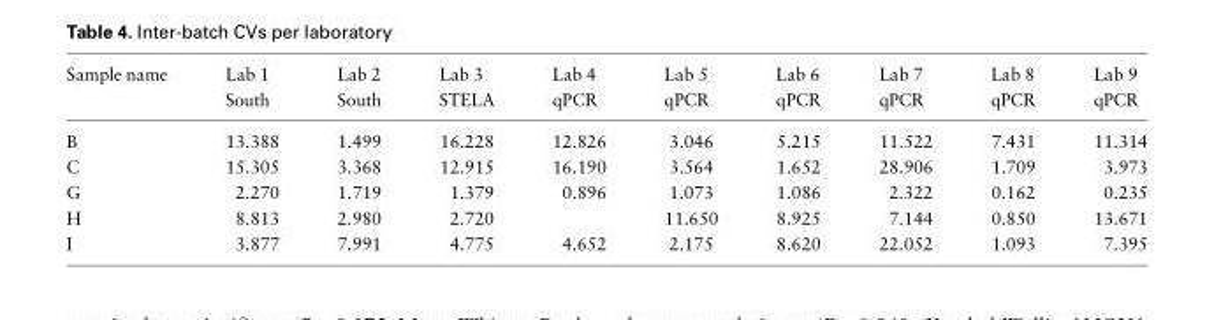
<table><thead><tr><td rowspan="2">Sample name</td><td rowspan="2">Lab 1 South</td><td rowspan="2">Lab 2 South</td><td rowspan="2">Lab 3 STELA</td><td rowspan="2">Lab 4 qPCR</td><td rowspan="2">Lab 5 qPCR</td><td rowspan="2">Lab 6 qPCR</td><td rowspan="2">Lab 7 qPCR</td><td rowspan="2">Lab 8 qPCR</td><td rowspan="2">Lab 9 qPCR</td></tr><tr></tr></thead><tbody><tr><td>B</td><td>13.388</td><td>1.499</td><td>16.228</td><td>12.826</td><td>3.046</td><td>5.215</td><td>11.522</td><td>7.431</td><td>11.314</td></tr><tr><td>C</td><td>15.305</td><td>3.368</td><td>12.915</td><td>16.190</td><td>3.564</td><td>1.652</td><td>28.906</td><td>1.709</td><td>3.973</td></tr><tr><td>G</td><td>2.270</td><td>1.719</td><td>1.379</td><td>0.896</td><td>1.073</td><td>1.086</td><td>2.322</td><td>0.162</td><td>0.235</td></tr><tr><td>H</td><td>8.813</td><td>2.980</td><td>2.720</td><td></td><td>11.650</td><td>8.925</td><td>7.144</td><td>0.850</td><td>13.671</td></tr><tr><td>I</td><td>3.877</td><td>7.991</td><td>4.775</td><td>4.652</td><td>2.175</td><td>8.620</td><td>22.052</td><td>1.093</td><td>7.395</td></tr></tbody></table>